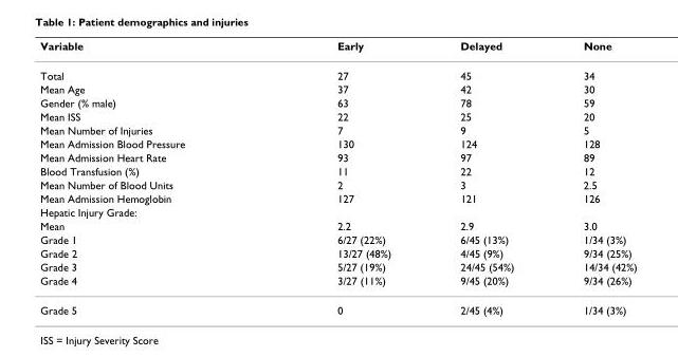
<table><thead><tr><td>Variable</td><td>Early</td><td>Delayed</td><td>None</td></tr></thead><tbody><tr><td>Total</td><td>27</td><td>45</td><td>34</td></tr><tr><td>Mean Age</td><td>37</td><td>42</td><td>30</td></tr><tr><td>Gender (% male)</td><td>63</td><td>78</td><td>59</td></tr><tr><td>Mean ISS</td><td>22</td><td>25</td><td>20</td></tr><tr><td>Mean Number of Injuries</td><td>7</td><td>9</td><td>5</td></tr><tr><td>Mean Admission Blood Pressure</td><td>130</td><td>124</td><td>128</td></tr><tr><td>Mean Admission Heart Rate</td><td>93</td><td>97</td><td>89</td></tr><tr><td>Blood Transfusion (%)</td><td>11</td><td>22</td><td>12</td></tr><tr><td>Mean Number of Blood Units</td><td>2</td><td>3</td><td>2.5</td></tr><tr><td>Mean Admission Hemoglobin</td><td>127</td><td>121</td><td>126</td></tr><tr><td colspan="4">Hepatic Injury Grade:</td></tr><tr><td>Mean</td><td>2.2</td><td>2.9</td><td>3.0</td></tr><tr><td>Grade 1</td><td>6/27 (22%)</td><td>6/45 (13%)</td><td>1/34 (3%)</td></tr><tr><td>Grade 2</td><td>13/27 (48%)</td><td>4/45 (9%)</td><td>9/34 (25%)</td></tr><tr><td>Grade 3</td><td>5/27 (19%)</td><td>24/45 (54%)</td><td>14/34 (42%)</td></tr><tr><td>Grade 4</td><td>3/27 (11%)</td><td>9/45 (20%)</td><td>9/34 (26%)</td></tr><tr><td>Grade 5</td><td>0</td><td>2/45 (4%)</td><td>1/34 (3%)</td></tr></tbody></table>